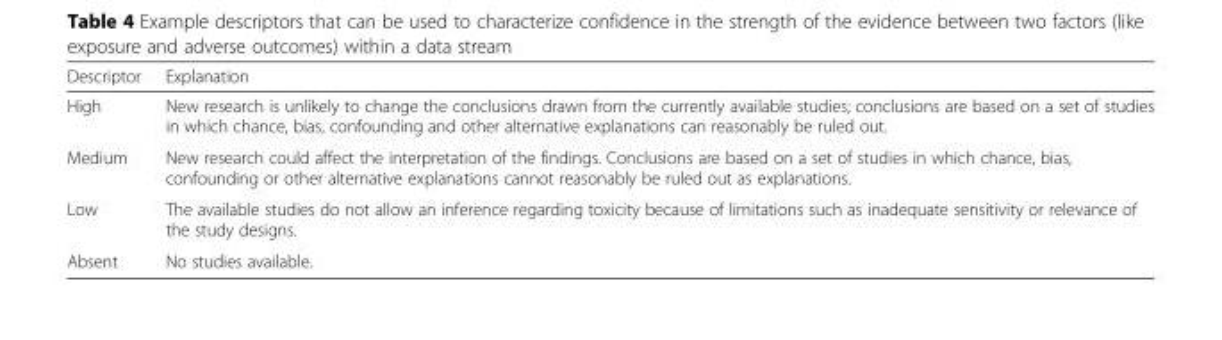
<table><thead><tr><td>Descriptor</td><td>Explanation</td></tr></thead><tbody><tr><td>High</td><td>New research is unlikely to change the conclusions drawn from the currently available studies; conclusions are based on a set of studies in which chance, bias, confounding and other alternative explanations can reasonably be ruled out.</td></tr><tr><td>Medium</td><td>New research could affect the interpretation of the findings. Conclusions are based on a set of studies in which chance, bias, confounding or other alternative explanations cannot reasonably be ruled out as explanations.</td></tr><tr><td>Low</td><td>The available studies do not allow an inference regarding toxicity because of limitations such as inadequate sensitivity or relevance of the study designs.</td></tr><tr><td>Absent</td><td>No studies available.</td></tr></tbody></table>